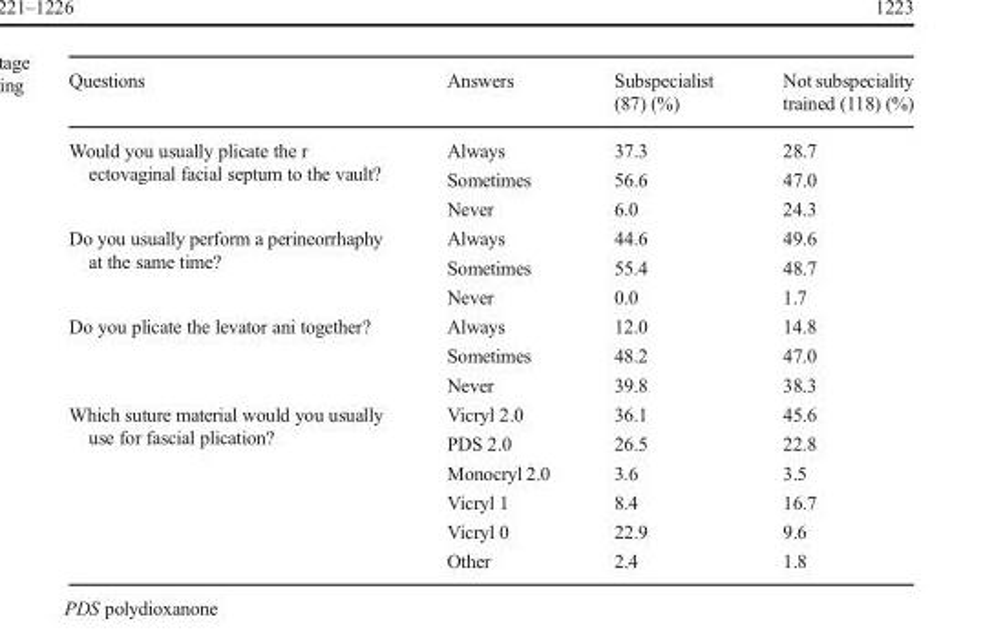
<table><thead><tr><td>Questions</td><td>Answers</td><td>Subspecialist (87) (%)</td><td>Not subspeciality trained (118) (%)</td></tr></thead><tbody><tr><td rowspan="3">Would you usually plicate the r ectovaginal facial septum to the vault?</td><td>Always</td><td>37.3</td><td>28.7</td></tr><tr><td>Sometimes</td><td>56.6</td><td>47.0</td></tr><tr><td>Never</td><td>6.0</td><td>24.3</td></tr><tr><td rowspan="3">Do you usually perform a perineorrhaphy at the same time?</td><td>Always</td><td>44.6</td><td>49.6</td></tr><tr><td>Sometimes</td><td>55.4</td><td>48.7</td></tr><tr><td>Never</td><td>0.0</td><td>1.7</td></tr><tr><td rowspan="3">Do you plicate the levator ani together?</td><td>Always</td><td>12.0</td><td>14.8</td></tr><tr><td>Sometimes</td><td>48.2</td><td>47.0</td></tr><tr><td>Never</td><td>39.8</td><td>38.3</td></tr><tr><td rowspan="6">Which suture material would you usually use for fascial plication?</td><td>Vicryl 2.0</td><td>36.1</td><td>45.6</td></tr><tr><td>PDS 2.0</td><td>26.5</td><td>22.8</td></tr><tr><td>Monocryl 2.0</td><td>3.6</td><td>3.5</td></tr><tr><td>Vicryl 1</td><td>8.4</td><td>16.7</td></tr><tr><td>Vicryl 0</td><td>22.9</td><td>9.6</td></tr><tr><td>Other</td><td>2.4</td><td>1.8</td></tr></tbody></table>